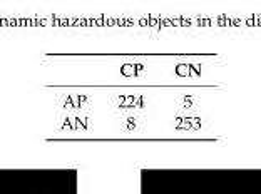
<table><thead><tr><td></td><td>CP</td><td>CN</td></tr></thead><tbody><tr><td>AP</td><td>224</td><td>5</td></tr><tr><td>AN</td><td>8</td><td>253</td></tr></tbody></table>